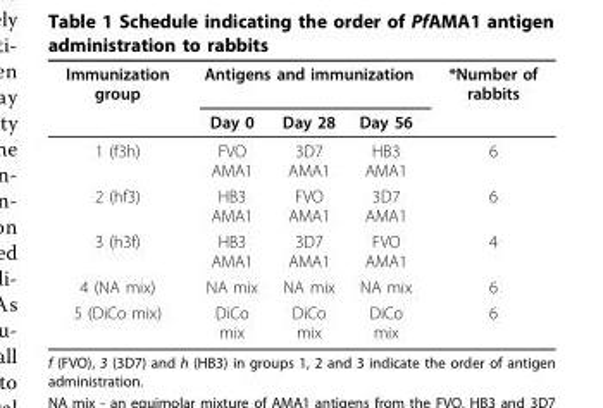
<table><thead><tr><td rowspan="2">Immunization group</td><td colspan="3">Antigens and immunization</td><td rowspan="2">*Number of rabbits</td></tr><tr><td>Day 0</td><td>Day 28</td><td>Day 56</td></tr></thead><tbody><tr><td>1 (f3h)</td><td>FVO AMA1</td><td>3D7 AMA1</td><td>HB3 AMA1</td><td>6</td></tr><tr><td>2 (hf3)</td><td>HB3 AMA1</td><td>FVO AMA1</td><td>3D7 AMA1</td><td>6</td></tr><tr><td>3 (h3f)</td><td>HB3 AMA1</td><td>3D7 AMA1</td><td>FVO AMA1</td><td>4</td></tr><tr><td>4 (NA mix)</td><td>NA mix</td><td>NA mix</td><td>NA mix</td><td>6</td></tr><tr><td>5 (DiCo mix)</td><td>DiCo mix</td><td>DiCo mix</td><td>DiCo mix</td><td>6</td></tr></tbody></table>